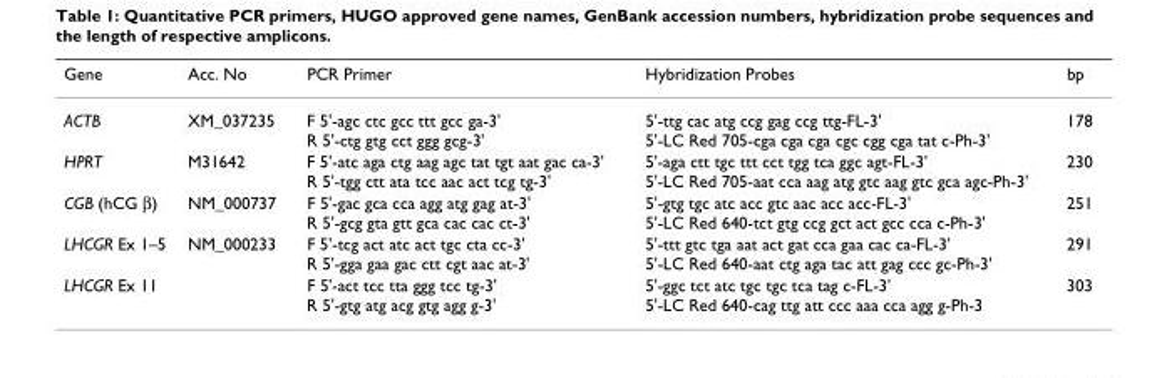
<table><thead><tr><td>Gene</td><td>Acc. No</td><td>PCR Primer</td><td>Hybridization Probes</td><td>bp</td></tr></thead><tbody><tr><td>ACTB</td><td>XM_037235</td><td>F 5&#x27;-agc ctc gcc ttt gcc ga-3&#x27; R 5&#x27;-ctg gtg cct ggg gcg-3&#x27;</td><td>5&#x27;-ttg cac atg ccg gag ccg ttg-FL-3&#x27; 5&#x27;-LC Red 705-cga cga cga cgc cgg cga tat c-Ph-3&#x27;</td><td>178</td></tr><tr><td>HPRT</td><td>M31642</td><td>F 5&#x27;-atc aga ctg aag agc tat tgt aat gac ca-3&#x27; R 5&#x27;-tgg ctt ata tcc aac act tcg tg-3&#x27;</td><td>5&#x27;-aga ctt tgc ttt cct tgg tca ggc agt-FL-3&#x27; 5&#x27;-LC Red 705-aat cca aag atg gtc aag gtc gca agc-Ph-3&#x27;</td><td>230</td></tr><tr><td>CGB (hCG β)</td><td>NM_000737</td><td>F 5&#x27;-gac gca cca agg atg gag at-3&#x27; R 5&#x27;-gcg gta gtt gca cac cac ct-3&#x27;</td><td>5&#x27;-gtg tgc atc acc gtc aac acc acc-FL-3&#x27; 5&#x27;-LC Red 640-tct gtg ccg gct act gcc cca c-Ph-3&#x27;</td><td>251</td></tr><tr><td>LHCGR Ex 1–5</td><td>NM_000233</td><td>F 5&#x27;-tcg act atc act tgc cta cc-3&#x27; R 5&#x27;-gga gaa gac ctt cgt aac at-3&#x27;</td><td>5&#x27;-ttt gtc tga aat act gat cca gaa cac ca-FL-3&#x27; 5&#x27;-LC Red 640-aat ctg aga tac att gag ccc gc-Ph-3&#x27;</td><td>291</td></tr><tr><td>LHCGR Ex 11</td><td></td><td>F 5&#x27;-act tcc tta ggg tcc tg-3&#x27; R 5&#x27;-gtg atg acg gtg agg g-3&#x27;</td><td>5&#x27;-ggc tct atc tgc tgc tca tag c-FL-3&#x27; 5&#x27;-LC Red 640-cag ttg att ccc aaa cca agg g-Ph-3</td><td>303</td></tr></tbody></table>